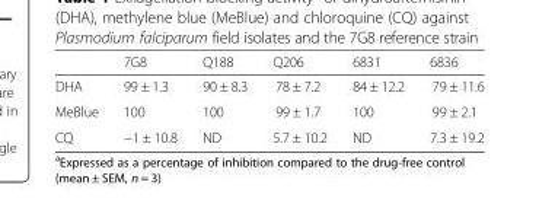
<table><thead><tr><td></td><td>7G8</td><td>Q188</td><td>Q206</td><td>6831</td><td>6836</td></tr></thead><tbody><tr><td>DHA</td><td>99 ± 1.3</td><td>90 ± 8.3</td><td>78 ± 7.2</td><td>84 ± 12.2</td><td>79 ± 11.6</td></tr><tr><td>MeBlue</td><td>100</td><td>100</td><td>99 ± 1.7</td><td>100</td><td>99 ± 2.1</td></tr><tr><td>CQ</td><td>−1 ± 10.8</td><td>ND</td><td>5.7 ± 10.2</td><td>ND</td><td>7.3 ± 19.2</td></tr></tbody></table>